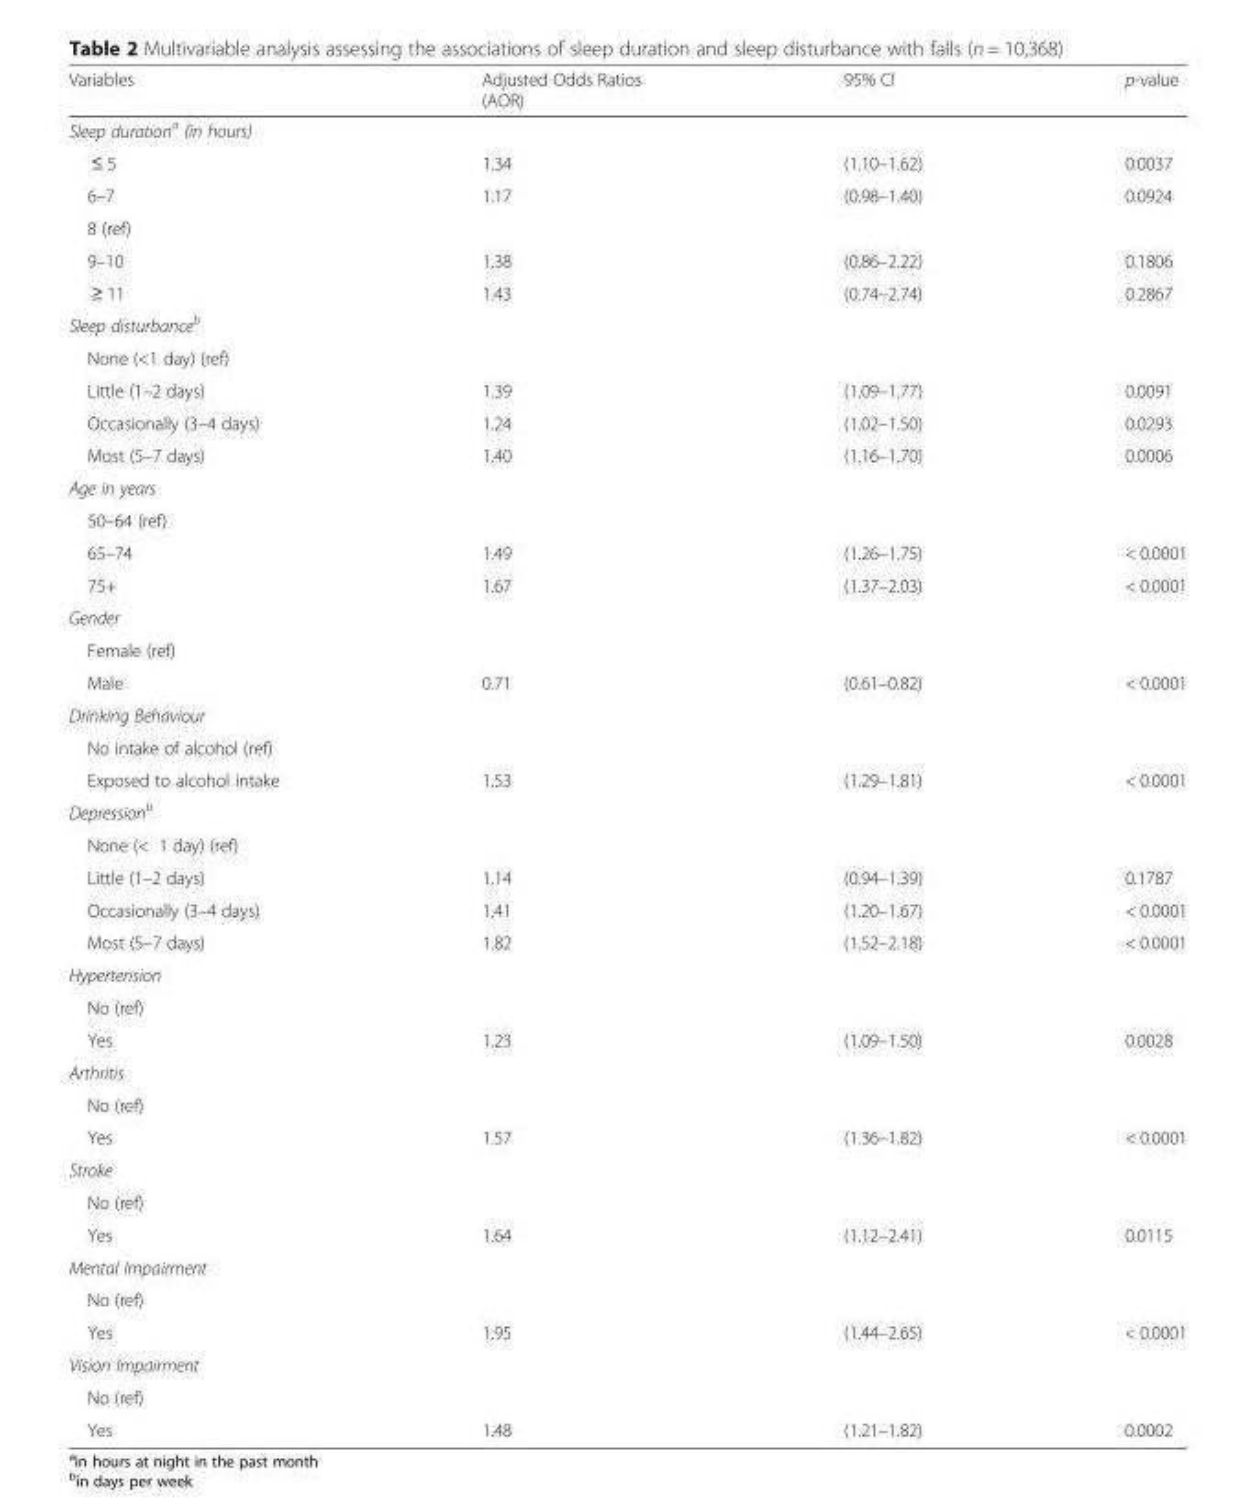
<table><thead><tr><td>Variables</td><td>Adjusted Odds Ratios (AOR)</td><td>95% Cl</td><td>p-value</td></tr></thead><tbody><tr><td colspan="4">Sleep duration<sup>a</sup> (in hours)</td></tr><tr><td>≤ 5</td><td>1.34</td><td>(1.10–1.62)</td><td>0.0037</td></tr><tr><td>6–7</td><td>1.17</td><td>(0.98–1.40)</td><td>0.0924</td></tr><tr><td colspan="4">8 (ref)</td></tr><tr><td>9–10</td><td>1.38</td><td>(0.86–2.22)</td><td>0.1806</td></tr><tr><td>≥ 11</td><td>1.43</td><td>(0.74–2.74)</td><td>0.2867</td></tr><tr><td colspan="4">Sleep disturbance<sup>b</sup></td></tr><tr><td colspan="4">None (&lt;1 day) (ref)</td></tr><tr><td>Little (1–2 days)</td><td>1.39</td><td>(1.09–1.77)</td><td>0.0091</td></tr><tr><td>Occasionally (3–4 days)</td><td>1.24</td><td>(1.02–1.50)</td><td>0.0293</td></tr><tr><td>Most (5–7 days)</td><td>1.40</td><td>(1.16–1.70)</td><td>0.0006</td></tr><tr><td colspan="4">Age in years</td></tr><tr><td colspan="4">50–64 (ref)</td></tr><tr><td>65–74</td><td>1.49</td><td>(1.26–1.75)</td><td>&lt; 0.0001</td></tr><tr><td>75+</td><td>1.67</td><td>(1.37–2.03)</td><td>&lt; 0.0001</td></tr><tr><td colspan="4">Gender</td></tr><tr><td colspan="4">Female (ref)</td></tr><tr><td>Male</td><td>0.71</td><td>(0.61–0.82)</td><td>&lt; 0.0001</td></tr><tr><td colspan="4">Drinking Behaviour</td></tr><tr><td colspan="4">No intake of alcohol (ref)</td></tr><tr><td>Exposed to alcohol intake</td><td>1.53</td><td>(1.29–1.81)</td><td>&lt; 0.0001</td></tr><tr><td colspan="4">Depression<sup>b</sup></td></tr><tr><td colspan="4">None (&lt; 1 day) (ref)</td></tr><tr><td>Little (1–2 days)</td><td>1.14</td><td>(0.94–1.39)</td><td>0.1787</td></tr><tr><td>Occasionally (3–4 days)</td><td>1.41</td><td>(1.20–1.67)</td><td>&lt; 0.0001</td></tr><tr><td>Most (5–7 days)</td><td>1.82</td><td>(1.52–2.18)</td><td>&lt; 0.0001</td></tr><tr><td colspan="4">Hypertension</td></tr><tr><td colspan="4">No (ref)</td></tr><tr><td>Yes</td><td>1.23</td><td>(1.09–1.50)</td><td>0.0028</td></tr><tr><td colspan="4">Arthritis</td></tr><tr><td colspan="4">No (ref)</td></tr><tr><td>Yes</td><td>1.57</td><td>(1.36–1.82)</td><td>&lt; 0.0001</td></tr><tr><td colspan="4">Stroke</td></tr><tr><td colspan="4">No (ref)</td></tr><tr><td>Yes</td><td>1.64</td><td>(1.12–2.41)</td><td>0.0115</td></tr><tr><td colspan="4">Mental Impairment</td></tr><tr><td colspan="4">No (ref)</td></tr><tr><td>Yes</td><td>1.95</td><td>(1.44–2.65)</td><td>&lt; 0.0001</td></tr><tr><td colspan="4">Vision Impairment</td></tr><tr><td colspan="4">No (ref)</td></tr><tr><td>Yes</td><td>1.48</td><td>(1.21–1.82)</td><td>0.0002</td></tr></tbody></table>